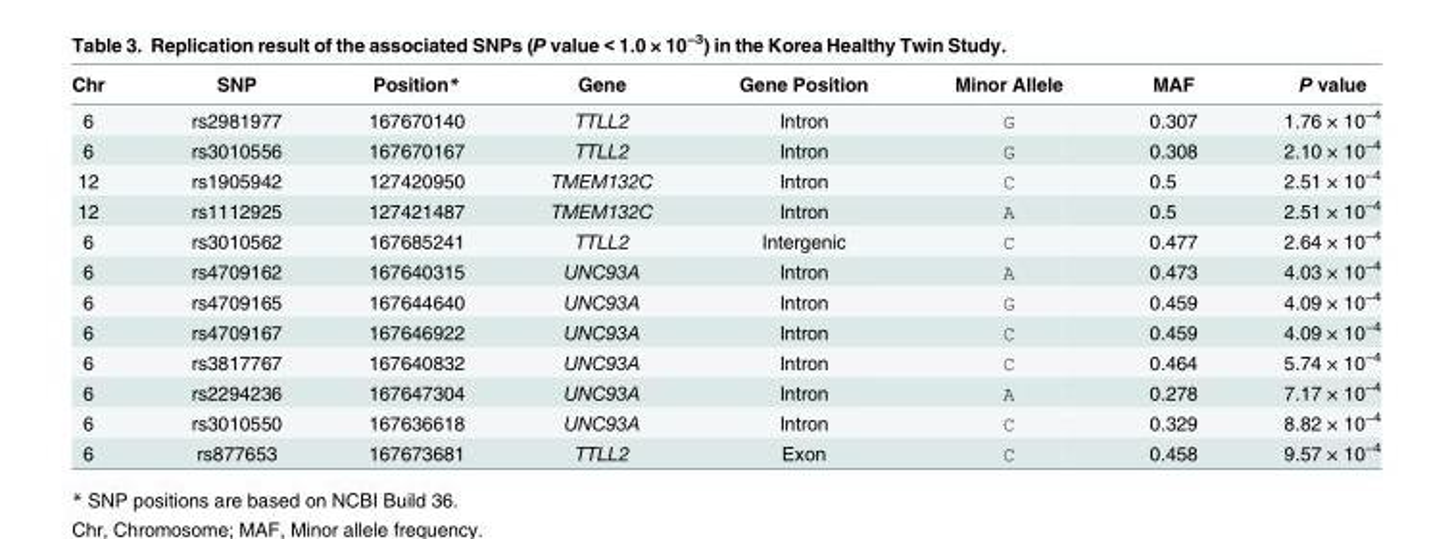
<table><thead><tr><td>Chr</td><td>SNP</td><td>Position*</td><td>Gene</td><td>Gene Position</td><td>Minor Allele</td><td>MAF</td><td>P value</td></tr></thead><tbody><tr><td>6</td><td>rs2981977</td><td>167670140</td><td>TTLL2</td><td>Intron</td><td>G</td><td>0.307</td><td>1.76 × 10<sup>−4</sup></td></tr><tr><td>6</td><td>rs3010556</td><td>167670167</td><td>TTLL2</td><td>Intron</td><td>G</td><td>0.308</td><td>2.10 × 10<sup>−4</sup></td></tr><tr><td>12</td><td>rs1905942</td><td>127420950</td><td>TMEM132C</td><td>Intron</td><td>C</td><td>0.5</td><td>2.51 × 10<sup>−4</sup></td></tr><tr><td>12</td><td>rs1112925</td><td>127421487</td><td>TMEM132C</td><td>Intron</td><td>A</td><td>0.5</td><td>2.51 × 10<sup>−4</sup></td></tr><tr><td>6</td><td>rs3010562</td><td>167685241</td><td>TTLL2</td><td>Intergenic</td><td>C</td><td>0.477</td><td>2.64 × 10<sup>−4</sup></td></tr><tr><td>6</td><td>rs4709162</td><td>167640315</td><td>UNC93A</td><td>Intron</td><td>A</td><td>0.473</td><td>4.03 × 10<sup>−4</sup></td></tr><tr><td>6</td><td>rs4709165</td><td>167644640</td><td>UNC93A</td><td>Intron</td><td>G</td><td>0.459</td><td>4.09 × 10<sup>−4</sup></td></tr><tr><td>6</td><td>rs4709167</td><td>167646922</td><td>UNC93A</td><td>Intron</td><td>C</td><td>0.459</td><td>4.09 × 10<sup>−4</sup></td></tr><tr><td>6</td><td>rs3817767</td><td>167640832</td><td>UNC93A</td><td>Intron</td><td>C</td><td>0.464</td><td>5.74 × 10<sup>−4</sup></td></tr><tr><td>6</td><td>rs2294236</td><td>167647304</td><td>UNC93A</td><td>Intron</td><td>A</td><td>0.278</td><td>7.17 × 10<sup>−4</sup></td></tr><tr><td>6</td><td>rs3010550</td><td>167636618</td><td>UNC93A</td><td>Intron</td><td>C</td><td>0.329</td><td>8.82 × 10<sup>−4</sup></td></tr><tr><td>6</td><td>rs877653</td><td>167673681</td><td>TTLL2</td><td>Exon</td><td>C</td><td>0.458</td><td>9.57 × 10<sup>−4</sup></td></tr></tbody></table>